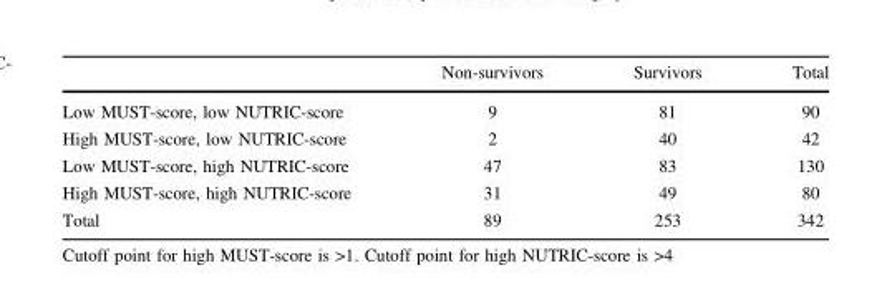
<table><thead><tr><td></td><td>Non-survivors</td><td>Survivors</td><td>Total</td></tr></thead><tbody><tr><td>Low MUST-score, low NUTRIC-score</td><td>9</td><td>81</td><td>90</td></tr><tr><td>High MUST-score, low NUTRIC-score</td><td>2</td><td>40</td><td>42</td></tr><tr><td>Low MUST-score, high NUTRIC-score</td><td>47</td><td>83</td><td>130</td></tr><tr><td>High MUST-score, high NUTRIC-score</td><td>31</td><td>49</td><td>80</td></tr><tr><td>Total</td><td>89</td><td>253</td><td>342</td></tr></tbody></table>